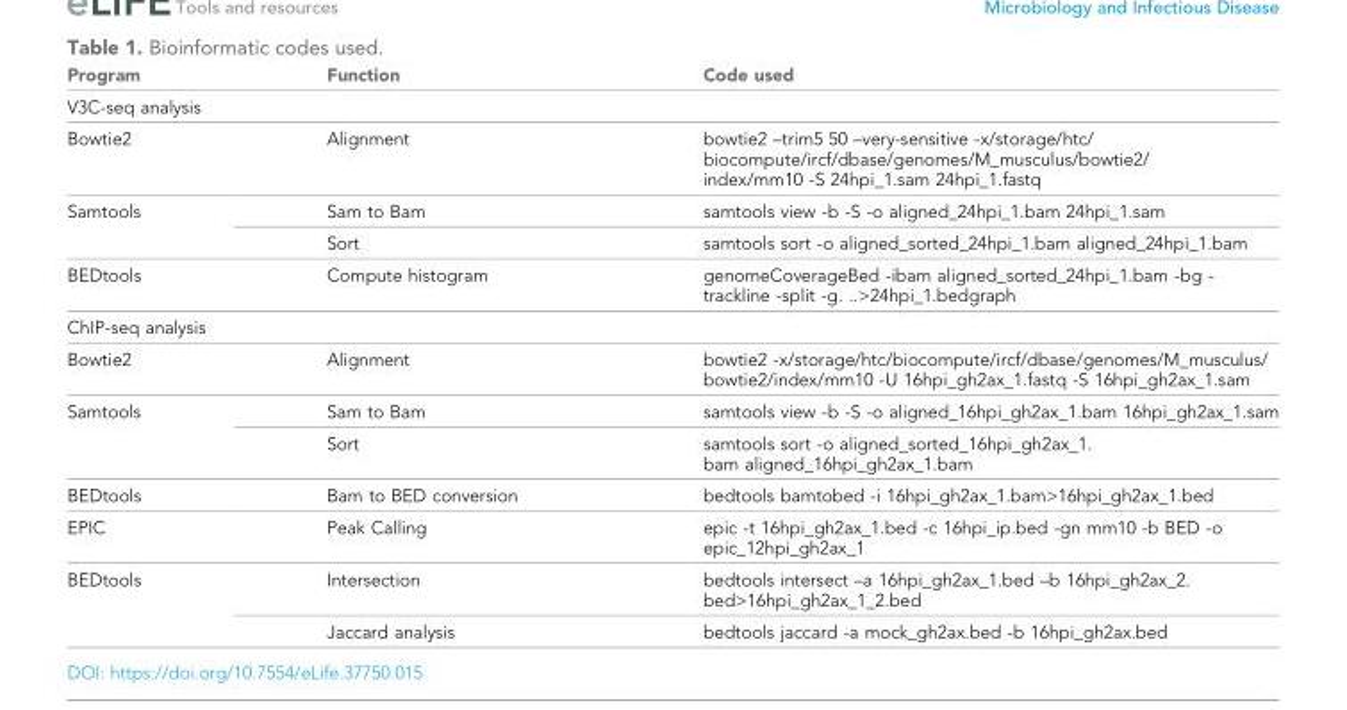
<table><thead><tr><td>Program</td><td>Function</td><td>Code used</td></tr></thead><tbody><tr><td colspan="3">V3C-seq analysis</td></tr><tr><td>Bowtie2</td><td>Alignment</td><td>bowtie2 –trim5 50 –very-sensitive -x/storage/htc/ biocompute/ircf/dbase/genomes/M_musculus/bowtie2/ index/mm10 -S 24hpi_1.sam 24hpi_1.fastq</td></tr><tr><td rowspan="2">Samtools</td><td>Sam to Bam</td><td>samtools view -b -S -o aligned_24hpi_1.bam 24hpi_1.sam</td></tr><tr><td>Sort</td><td>samtools sort -o aligned_sorted_24hpi_1.bam aligned_24hpi_1.bam</td></tr><tr><td>BEDtools</td><td>Compute histogram</td><td>genomeCoverageBed -ibam aligned_sorted_24hpi_1.bam -bg - trackline -split -g. ..&gt;24hpi_1.bedgraph</td></tr><tr><td colspan="3">ChIP-seq analysis</td></tr><tr><td>Bowtie2</td><td>Alignment</td><td>bowtie2 -x/storage/htc/biocompute/ircf/dbase/genomes/M_musculus/ bowtie2/index/mm10 -U 16hpi_gh2ax_1.fastq -S 16hpi_gh2ax_1.sam</td></tr><tr><td rowspan="2">Samtools</td><td>Sam to Bam</td><td>samtools view -b -S -o aligned_16hpi_gh2ax_1.bam 16hpi_gh2ax_1.sam</td></tr><tr><td>Sort</td><td>samtools sort -o aligned_sorted_16hpi_gh2ax_1. bam aligned_16hpi_gh2ax_1.bam</td></tr><tr><td>BEDtools</td><td>Bam to BED conversion</td><td>bedtools bamtobed -i 16hpi_gh2ax_1.bam&gt;16hpi_gh2ax_1.bed</td></tr><tr><td>EPIC</td><td>Peak Calling</td><td>epic -t 16hpi_gh2ax_1.bed -c 16hpi_ip.bed -gn mm10 -b BED -o epic_12hpi_gh2ax_1</td></tr><tr><td rowspan="2">BEDtools</td><td>Intersection</td><td>bedtools intersect –a 16hpi_gh2ax_1.bed –b 16hpi_gh2ax_2. bed&gt;16hpi_gh2ax_1_2.bed</td></tr><tr><td>Jaccard analysis</td><td>bedtools jaccard -a mock_gh2ax.bed -b 16hpi_gh2ax.bed</td></tr></tbody></table>